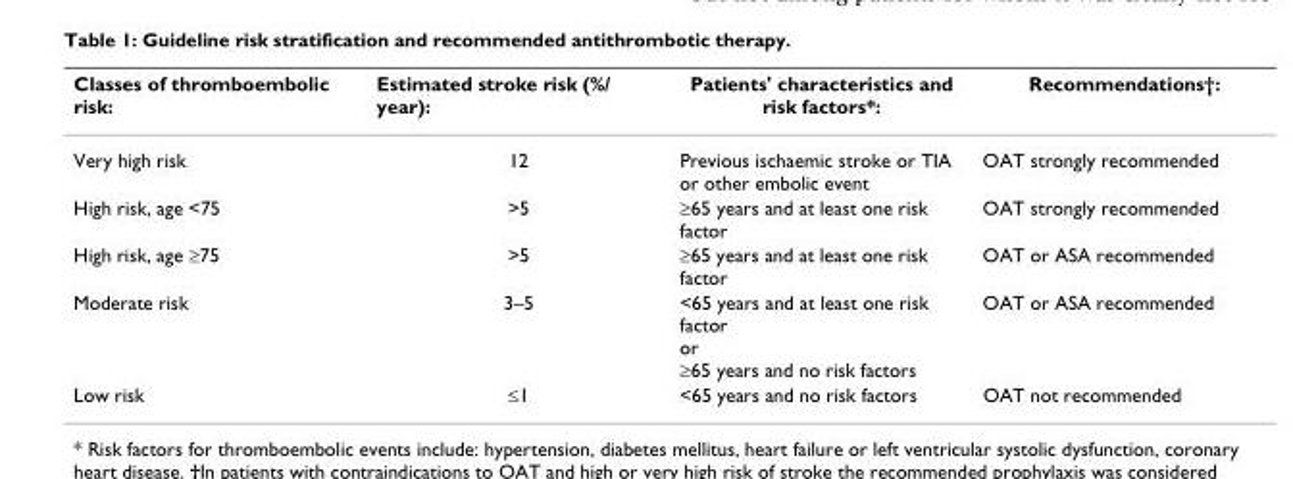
<table><thead><tr><td>Classes of thromboembolic risk:</td><td>Estimated stroke risk (%/ year):</td><td>Patients&#x27; characteristics and risk factors*:</td><td>Recommendations†:</td></tr></thead><tbody><tr><td>Very high risk</td><td>12</td><td>Previous ischaemic stroke or TIA or other embolic event</td><td>OAT strongly recommended</td></tr><tr><td>High risk, age &lt;75</td><td>&gt;5</td><td>≥65 years and at least one risk factor</td><td>OAT strongly recommended</td></tr><tr><td>High risk, age ≥75</td><td>&gt;5</td><td>≥65 years and at least one risk factor</td><td>OAT or ASA recommended</td></tr><tr><td>Moderate risk</td><td>3–5</td><td>&lt;65 years and at least one risk factor or ≥65 years and no risk factors</td><td>OAT or ASA recommended</td></tr><tr><td>Low risk</td><td>≤1</td><td>&lt;65 years and no risk factors</td><td>OAT not recommended</td></tr></tbody></table>